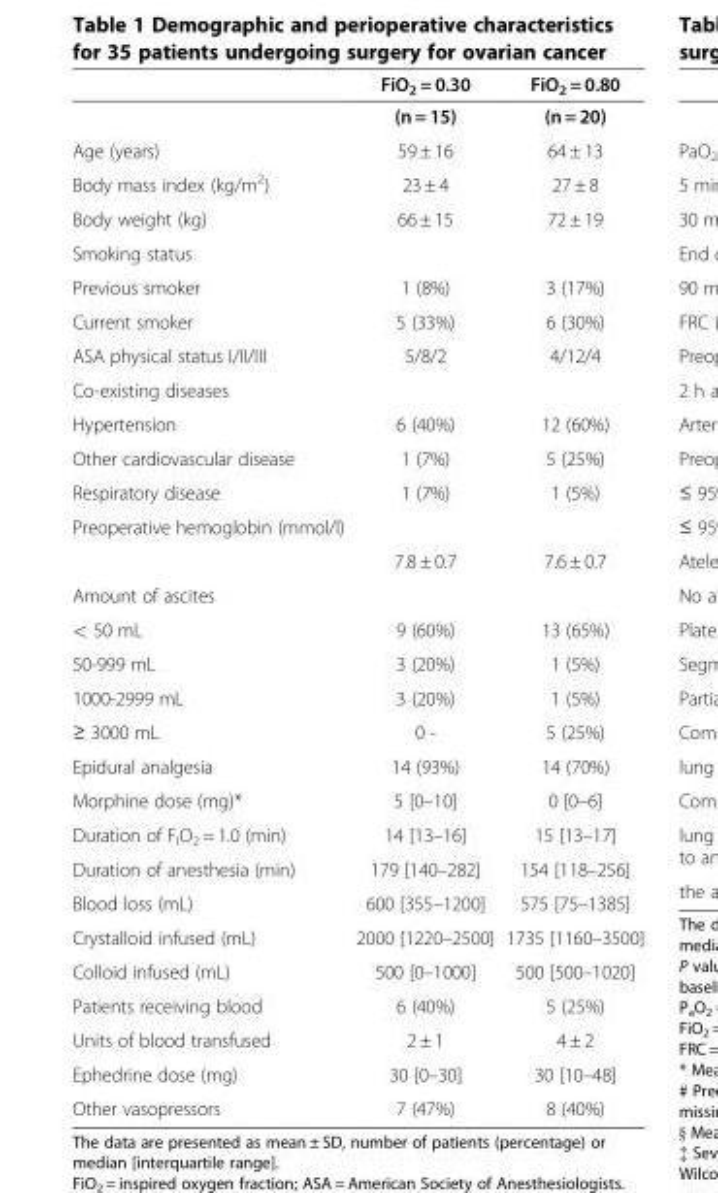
<table><thead><tr><td></td><td>FiO<sub>2</sub> = 0.30</td><td>FiO<sub>2</sub> = 0.80</td></tr></thead><tbody><tr><td></td><td>(n = 15)</td><td>(n = 20)</td></tr><tr><td>Age (years)</td><td>59 ± 16</td><td>64 ± 13</td></tr><tr><td>Body mass index (kg/m<sup>2</sup>)</td><td>23 ± 4</td><td>27 ± 8</td></tr><tr><td>Body weight (kg)</td><td>66 ± 15</td><td>72 ± 19</td></tr><tr><td colspan="3">Smoking status</td></tr><tr><td>Previous smoker</td><td>1 (8%)</td><td>3 (17%)</td></tr><tr><td>Current smoker</td><td>5 (33%)</td><td>6 (30%)</td></tr><tr><td>ASA physical status I/II/III</td><td>5/8/2</td><td>4/12/4</td></tr><tr><td colspan="3">Co-existing diseases</td></tr><tr><td>Hypertension</td><td>6 (40%)</td><td>12 (60%)</td></tr><tr><td>Other cardiovascular disease</td><td>1 (7%)</td><td>5 (25%)</td></tr><tr><td>Respiratory disease</td><td>1 (7%)</td><td>1 (5%)</td></tr><tr><td colspan="3">Preoperative hemoglobin (mmol/l)</td></tr><tr><td></td><td>7.8 ± 0.7</td><td>7.6 ± 0.7</td></tr><tr><td colspan="3">Amount of ascites</td></tr><tr><td>&lt; 50 mL</td><td>9 (60%)</td><td>13 (65%)</td></tr><tr><td>50-999 mL</td><td>3 (20%)</td><td>1 (5%)</td></tr><tr><td>1000-2999 mL</td><td>3 (20%)</td><td>1 (5%)</td></tr><tr><td>≥ 3000 mL</td><td>0 -</td><td>5 (25%)</td></tr><tr><td>Epidural analgesia</td><td>14 (93%)</td><td>14 (70%)</td></tr><tr><td>Morphine dose (mg)*</td><td>5 [0–10]</td><td>0 [0–6]</td></tr><tr><td>Duration of F<sub>I</sub>O<sub>2</sub> = 1.0 (min)</td><td>14 [13–16]</td><td>15 [13–17]</td></tr><tr><td>Duration of anesthesia (min)</td><td>179 [140–282]</td><td>154 [118–256]</td></tr><tr><td>Blood loss (mL)</td><td>600 [355–1200]</td><td>575 [75–1385]</td></tr><tr><td>Crystalloid infused (mL)</td><td>2000 [1220–2500]</td><td>1735 [1160–3500]</td></tr><tr><td>Colloid infused (mL)</td><td>500 [0–1000]</td><td>500 [500–1020]</td></tr><tr><td>Patients receiving blood</td><td>6 (40%)</td><td>5 (25%)</td></tr><tr><td>Units of blood transfused</td><td>2 ± 1</td><td>4 ± 2</td></tr><tr><td>Ephedrine dose (mg)</td><td>30 [0–30]</td><td>30 [10–48]</td></tr><tr><td>Other vasopressors</td><td>7 (47%)</td><td>8 (40%)</td></tr></tbody></table>